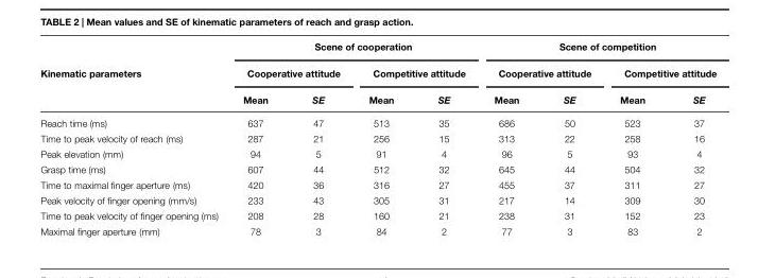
<table><thead><tr><td rowspan="3">Kinematic parameters</td><td colspan="4">Scene of cooperation</td><td colspan="4">Scene of competition</td></tr><tr><td colspan="2">Cooperative attitude</td><td colspan="2">Competitive attitude</td><td colspan="2">Cooperative attitude</td><td colspan="2">Competitive attitude</td></tr><tr><td>Mean</td><td>SE</td><td>Mean</td><td>SE</td><td>Mean</td><td>SE</td><td>Mean</td><td>SE</td></tr></thead><tbody><tr><td>Reach time (ms)</td><td>637</td><td>47</td><td>513</td><td>35</td><td>686</td><td>50</td><td>523</td><td>37</td></tr><tr><td>Time to peak velocity of reach (ms)</td><td>287</td><td>21</td><td>256</td><td>15</td><td>313</td><td>22</td><td>258</td><td>16</td></tr><tr><td>Peak elevation (mm)</td><td>94</td><td>5</td><td>91</td><td>4</td><td>96</td><td>5</td><td>93</td><td>4</td></tr><tr><td>Grasp time (ms)</td><td>607</td><td>44</td><td>512</td><td>32</td><td>645</td><td>44</td><td>504</td><td>32</td></tr><tr><td>Time to maximal finger aperture (ms)</td><td>420</td><td>36</td><td>316</td><td>27</td><td>455</td><td>37</td><td>311</td><td>27</td></tr><tr><td>Peak velocity of finger opening (mm/s)</td><td>233</td><td>43</td><td>305</td><td>31</td><td>217</td><td>14</td><td>309</td><td>30</td></tr><tr><td>Time to peak velocity of finger opening (ms)</td><td>208</td><td>28</td><td>160</td><td>21</td><td>238</td><td>31</td><td>152</td><td>23</td></tr><tr><td>Maximal finger aperture (mm)</td><td>78</td><td>3</td><td>84</td><td>2</td><td>77</td><td>3</td><td>83</td><td>2</td></tr></tbody></table>